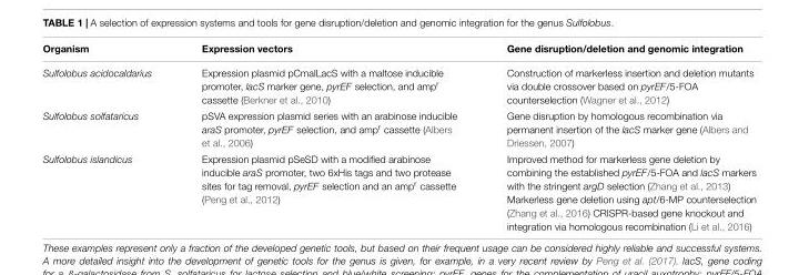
<table><thead><tr><td>Organism</td><td>Expression vectors</td><td>Gene disruption/deletion and genomic integration</td></tr></thead><tbody><tr><td>Sulfolobus acidocaldarius</td><td>Expression plasmid pCmalLacS with a maltose inducible promoter, lacS marker gene, pyrEF selection, and amp<sup>r</sup> cassette (Berkner et al., 2010)</td><td>Construction of markerless insertion and deletion mutants via double crossover based on pyrEF/5-FOA counterselection (Wagner et al., 2012)</td></tr><tr><td>Sulfolobus solfataricus</td><td>pSVA expression plasmid series with an arabinose inducible araS promoter, pyrEF selection, and amp<sup>r</sup> cassette (Albers et al., 2006)</td><td>Gene disruption by homologous recombination via permanent insertion of the lacS marker gene (Albers and Driessen, 2007)</td></tr><tr><td>Sulfolobus islandicus</td><td>Expression plasmid pSeSD with a modified arabinose inducible araS promoter, two 6xHis tags and two protease sites for tag removal, pyrEF selection and an amp<sup>r</sup> cassette (Peng et al., 2012)</td><td>Improved method for markerless gene deletion by combining the established pyrEF/5-FOA and lacS markers with the stringent argD selection (Zhang et al., 2013) Markerless gene deletion using apt/6-MP counterselection (Zhang et al., 2016) CRISPR-based gene knockout and integration via homologous recombination (Li et al., 2016)</td></tr></tbody></table>